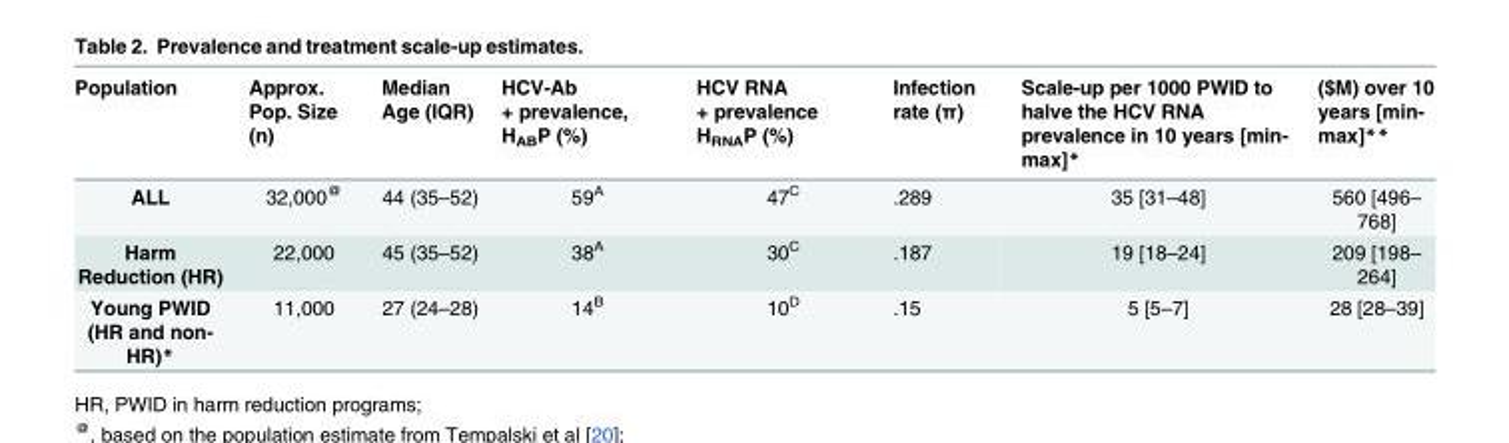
<table><thead><tr><td>Population</td><td>Approx. Pop. Size (n)</td><td>Median Age (IQR)</td><td>HCV-Ab + prevalence, H<sub>AB</sub>P (%)</td><td>HCV RNA + prevalence H<sub>RNA</sub>P (%)</td><td>Infection rate (π)</td><td>Scale-up per 1000 PWID to halve the HCV RNA prevalence in 10 years [min- max]*</td><td>($M) over 10 years [min- max]**</td></tr></thead><tbody><tr><td>ALL</td><td>32,000<sup>@</sup></td><td>44 (35–52)</td><td>59<sup>A</sup></td><td>47<sup>C</sup></td><td>.289</td><td>35 [31–48]</td><td>560 [496– 768]</td></tr><tr><td>Harm Reduction (HR)</td><td>22,000</td><td>45 (35–52)</td><td>38<sup>A</sup></td><td>30<sup>C</sup></td><td>.187</td><td>19 [18–24]</td><td>209 [198– 264]</td></tr><tr><td>Young PWID (HR and non- HR)*</td><td>11,000</td><td>27 (24–28)</td><td>14<sup>B</sup></td><td>10<sup>D</sup></td><td>.15</td><td>5 [5–7]</td><td>28 [28–39]</td></tr></tbody></table>